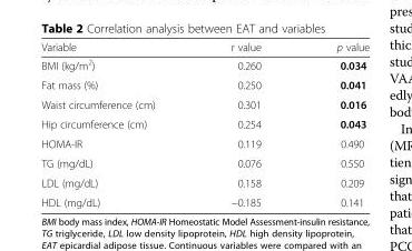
<table><thead><tr><td>Variable</td><td>r value</td><td>p value</td></tr></thead><tbody><tr><td>BMI (kg/m<sup>2</sup>)</td><td>0.260</td><td>0.034</td></tr><tr><td>Fat mass (%)</td><td>0.250</td><td>0.041</td></tr><tr><td>Waist circumference (cm)</td><td>0.301</td><td>0.016</td></tr><tr><td>Hip circumference (cm)</td><td>0.254</td><td>0.043</td></tr><tr><td>HOMA-IR</td><td>0.119</td><td>0.490</td></tr><tr><td>TG (mg/dL)</td><td>0.076</td><td>0.550</td></tr><tr><td>LDL (mg/dL)</td><td>0.158</td><td>0.209</td></tr><tr><td>HDL (mg/dL)</td><td>−0.185</td><td>0.141</td></tr></tbody></table>